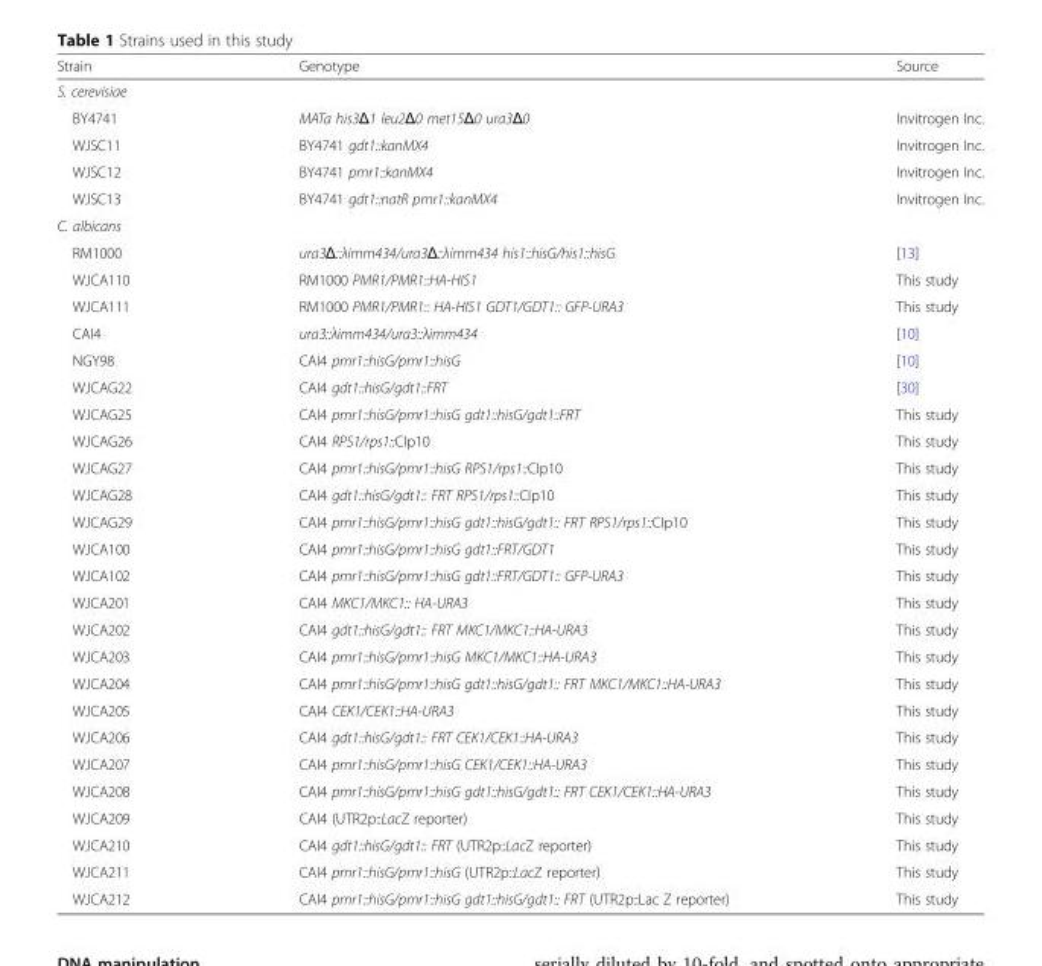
<table><thead><tr><td>Strain</td><td>Genotype</td><td>Source</td></tr></thead><tbody><tr><td colspan="3">S. cerevisiae</td></tr><tr><td>BY4741</td><td>MATa his3Δ1 leu2Δ0 met15Δ0 ura3Δ0</td><td>Invitrogen Inc.</td></tr><tr><td>WJSC11</td><td>BY4741 gdt1::kanMX4</td><td>Invitrogen Inc.</td></tr><tr><td>WJSC12</td><td>BY4741 pmr1::kanMX4</td><td>Invitrogen Inc.</td></tr><tr><td>WJSC13</td><td>BY4741 gdt1::natR pmr1::kanMX4</td><td>Invitrogen Inc.</td></tr><tr><td colspan="3">C. albicans</td></tr><tr><td>RM1000</td><td>ura3Δ::λimm434/ura3Δ::λimm434 his1::hisG/his1::hisG</td><td>[13]</td></tr><tr><td>WJCA110</td><td>RM1000 PMR1/PMR1::HA-HIS1</td><td>This study</td></tr><tr><td>WJCA111</td><td>RM1000 PMR1/PMR1:: HA-HIS1 GDT1/GDT1:: GFP-URA3</td><td>This study</td></tr><tr><td>CAI4</td><td>ura3::λimm434/ura3::λimm434</td><td>[10]</td></tr><tr><td>NGY98</td><td>CAI4 pmr1::hisG/pmr1::hisG</td><td>[10]</td></tr><tr><td>WJCAG22</td><td>CAI4 gdt1::hisG/gdt1::FRT</td><td>[30]</td></tr><tr><td>WJCAG25</td><td>CAI4 pmr1::hisG/pmr1::hisG gdt1::hisG/gdt1::FRT</td><td>This study</td></tr><tr><td>WJCAG26</td><td>CAI4 RPS1/rps1::CIp10</td><td>This study</td></tr><tr><td>WJCAG27</td><td>CAI4 pmr1::hisG/pmr1::hisG RPS1/rps1::CIp10</td><td>This study</td></tr><tr><td>WJCAG28</td><td>CAI4 gdt1::hisG/gdt1:: FRT RPS1/rps1::CIp10</td><td>This study</td></tr><tr><td>WJCAG29</td><td>CAI4 pmr1::hisG/pmr1::hisG gdt1::hisG/gdt1:: FRT RPS1/rps1::CIp10</td><td>This study</td></tr><tr><td>WJCA100</td><td>CAI4 pmr1::hisG/pmr1::hisG gdt1::FRT/GDT1</td><td>This study</td></tr><tr><td>WJCA102</td><td>CAI4 pmr1::hisG/pmr1::hisG gdt1::FRT/GDT1:: GFP-URA3</td><td>This study</td></tr><tr><td>WJCA201</td><td>CAI4 MKC1/MKC1:: HA-URA3</td><td>This study</td></tr><tr><td>WJCA202</td><td>CAI4 gdt1::hisG/gdt1:: FRT MKC1/MKC1::HA-URA3</td><td>This study</td></tr><tr><td>WJCA203</td><td>CAI4 pmr1::hisG/pmr1::hisG MKC1/MKC1::HA-URA3</td><td>This study</td></tr><tr><td>WJCA204</td><td>CAI4 pmr1::hisG/pmr1::hisG gdt1::hisG/gdt1:: FRT MKC1/MKC1::HA-URA3</td><td>This study</td></tr><tr><td>WJCA205</td><td>CAI4 CEK1/CEK1::HA-URA3</td><td>This study</td></tr><tr><td>WJCA206</td><td>CAI4 gdt1::hisG/gdt1:: FRT CEK1/CEK1::HA-URA3</td><td>This study</td></tr><tr><td>WJCA207</td><td>CAI4 pmr1::hisG/pmr1::hisG CEK1/CEK1::HA-URA3</td><td>This study</td></tr><tr><td>WJCA208</td><td>CAI4 pmr1::hisG/pmr1::hisG gdt1::hisG/gdt1:: FRT CEK1/CEK1::HA-URA3</td><td>This study</td></tr><tr><td>WJCA209</td><td>CAI4 (UTR2p::LacZ reporter)</td><td>This study</td></tr><tr><td>WJCA210</td><td>CAI4 gdt1::hisG/gdt1:: FRT (UTR2p::LacZ reporter)</td><td>This study</td></tr><tr><td>WJCA211</td><td>CAI4 pmr1::hisG/pmr1::hisG (UTR2p::LacZ reporter)</td><td>This study</td></tr><tr><td>WJCA212</td><td>CAI4 pmr1::hisG/pmr1::hisG gdt1::hisG/gdt1:: FRT (UTR2p::Lac Z reporter)</td><td>This study</td></tr></tbody></table>